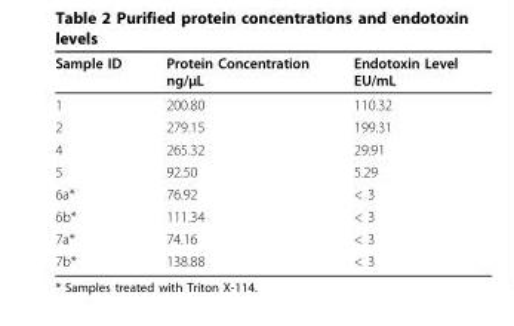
<table><thead><tr><td>Sample ID</td><td>Protein Concentration ng/μL</td><td>Endotoxin Level EU/mL</td></tr></thead><tbody><tr><td>1</td><td>200.80</td><td>110.32</td></tr><tr><td>2</td><td>279.15</td><td>199.31</td></tr><tr><td>4</td><td>265.32</td><td>29.91</td></tr><tr><td>5</td><td>92.50</td><td>5.29</td></tr><tr><td>6a*</td><td>76.92</td><td>&lt; 3</td></tr><tr><td>6b*</td><td>111.34</td><td>&lt; 3</td></tr><tr><td>7a*</td><td>74.16</td><td>&lt; 3</td></tr><tr><td>7b*</td><td>138.88</td><td>&lt; 3</td></tr></tbody></table>